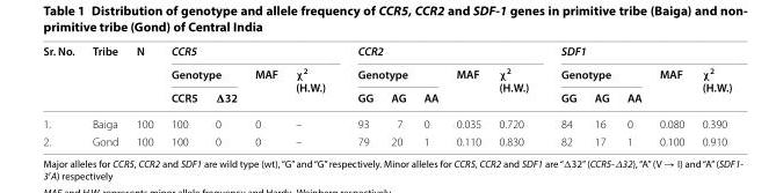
<table><thead><tr><td rowspan="3">Sr. No.</td><td rowspan="3">Tribe</td><td rowspan="3">N</td><td colspan="4">CCR5</td><td colspan="5">CCR2</td><td colspan="5">SDF1</td></tr><tr><td colspan="2">Genotype</td><td rowspan="2">MAF</td><td rowspan="2">χ<sup>2</sup> (H.W.)</td><td colspan="3">Genotype</td><td rowspan="2">MAF</td><td rowspan="2">χ<sup>2</sup> (H.W.)</td><td colspan="3">Genotype</td><td rowspan="2">MAF</td><td rowspan="2">χ<sup>2</sup> (H.W.)</td></tr><tr><td>CCR5</td><td>Δ32</td><td>GG</td><td>AG</td><td>AA</td><td>GG</td><td>AG</td><td>AA</td></tr></thead><tbody><tr><td>1.</td><td>Baiga</td><td>100</td><td>100</td><td>0</td><td>0</td><td>–</td><td>93</td><td>7</td><td>0</td><td>0.035</td><td>0.720</td><td>84</td><td>16</td><td>0</td><td>0.080</td><td>0.390</td></tr><tr><td>2.</td><td>Gond</td><td>100</td><td>100</td><td>0</td><td>0</td><td>–</td><td>79</td><td>20</td><td>1</td><td>0.110</td><td>0.830</td><td>82</td><td>17</td><td>1</td><td>0.100</td><td>0.910</td></tr></tbody></table>